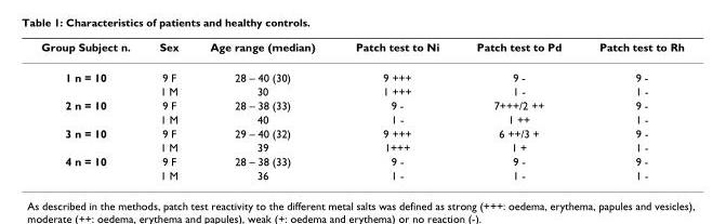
<table><thead><tr><td>Group Subject n.</td><td>Sex</td><td>Age range (median)</td><td>Patch test to Ni</td><td>Patch test to Pd</td><td>Patch test to Rh</td></tr></thead><tbody><tr><td rowspan="2">1 n = 10</td><td>9 F</td><td>28 – 40 (30)</td><td>9 +++</td><td>9 -</td><td>9 -</td></tr><tr><td>1 M</td><td>30</td><td>1 +++</td><td>1 -</td><td>1 -</td></tr><tr><td rowspan="2">2 n = 10</td><td>9 F</td><td>28 – 38 (33)</td><td>9 -</td><td>7+++/2 ++</td><td>9 -</td></tr><tr><td>1 M</td><td>40</td><td>1 -</td><td>1 ++</td><td>1 -</td></tr><tr><td rowspan="2">3 n = 10</td><td>9 F</td><td>29 – 40 (32)</td><td>9 +++</td><td>6 ++/3 +</td><td>9 -</td></tr><tr><td>1 M</td><td>39</td><td>1+++</td><td>1 +</td><td>1 -</td></tr><tr><td rowspan="2">4 n = 10</td><td>9 F</td><td>28 – 38 (33)</td><td>9 -</td><td>9 -</td><td>9 -</td></tr><tr><td>1 M</td><td>36</td><td>1 -</td><td>1 -</td><td>1 -</td></tr></tbody></table>